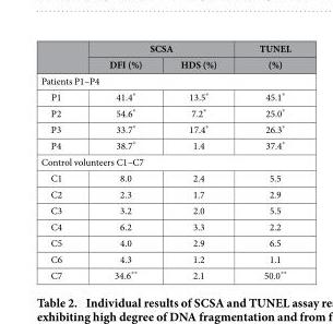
<table><thead><tr><td rowspan="2"></td><td colspan="2">SCSA</td><td rowspan="2">TUNEL (%)</td></tr><tr><td>DFI (%)</td><td>HDS (%)</td></tr></thead><tbody><tr><td colspan="4">Patients P1–P4</td></tr><tr><td>P1</td><td>41.4*</td><td>13.5*</td><td>45.1*</td></tr><tr><td>P2</td><td>54.6*</td><td>7.2*</td><td>25.0*</td></tr><tr><td>P3</td><td>33.7*</td><td>17.4*</td><td>26.3*</td></tr><tr><td>P4</td><td>38.7*</td><td>1.4</td><td>37.4*</td></tr><tr><td colspan="4">Control volunteers C1–C7</td></tr><tr><td>C1</td><td>8.0</td><td>2.4</td><td>5.5</td></tr><tr><td>C2</td><td>2.3</td><td>1.7</td><td>2.9</td></tr><tr><td>C3</td><td>3.2</td><td>2.0</td><td>5.5</td></tr><tr><td>C4</td><td>6.2</td><td>3.3</td><td>2.2</td></tr><tr><td>C5</td><td>4.0</td><td>2.9</td><td>6.5</td></tr><tr><td>C6</td><td>4.3</td><td>1.2</td><td>1.1</td></tr><tr><td>C7</td><td>34.6**</td><td>2.1</td><td>50.0**</td></tr></tbody></table>